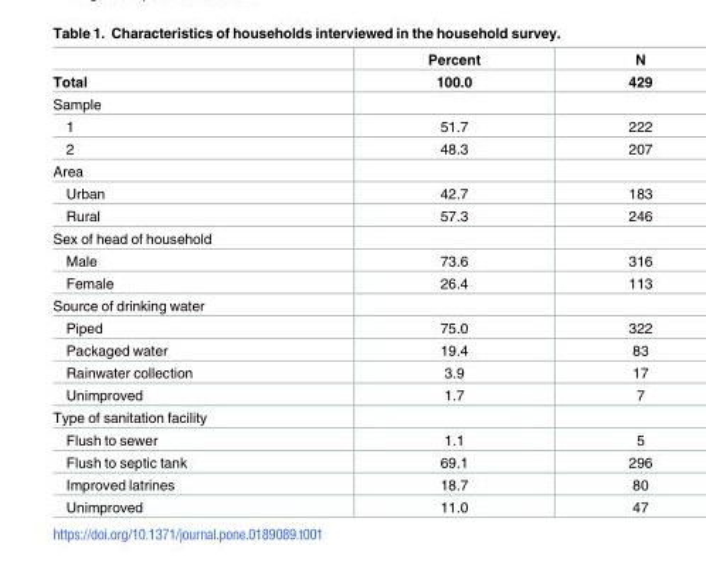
<table><thead><tr><td rowspan="2">Total</td><td rowspan="2">Percent 100.0</td><td rowspan="2">N 429</td></tr><tr></tr></thead><tbody><tr><td colspan="3">Sample</td></tr><tr><td>1</td><td>51.7</td><td>222</td></tr><tr><td>2</td><td>48.3</td><td>207</td></tr><tr><td colspan="3">Area</td></tr><tr><td>Urban</td><td>42.7</td><td>183</td></tr><tr><td>Rural</td><td>57.3</td><td>246</td></tr><tr><td colspan="3">Sex of head of household</td></tr><tr><td>Male</td><td>73.6</td><td>316</td></tr><tr><td>Female</td><td>26.4</td><td>113</td></tr><tr><td colspan="3">Source of drinking water</td></tr><tr><td>Piped</td><td>75.0</td><td>322</td></tr><tr><td>Packaged water</td><td>19.4</td><td>83</td></tr><tr><td>Rainwater collection</td><td>3.9</td><td>17</td></tr><tr><td>Unimproved</td><td>1.7</td><td>7</td></tr><tr><td colspan="3">Type of sanitation facility</td></tr><tr><td>Flush to sewer</td><td>1.1</td><td>5</td></tr><tr><td>Flush to septic tank</td><td>69.1</td><td>296</td></tr><tr><td>Improved latrines</td><td>18.7</td><td>80</td></tr><tr><td>Unimproved</td><td>11.0</td><td>47</td></tr></tbody></table>